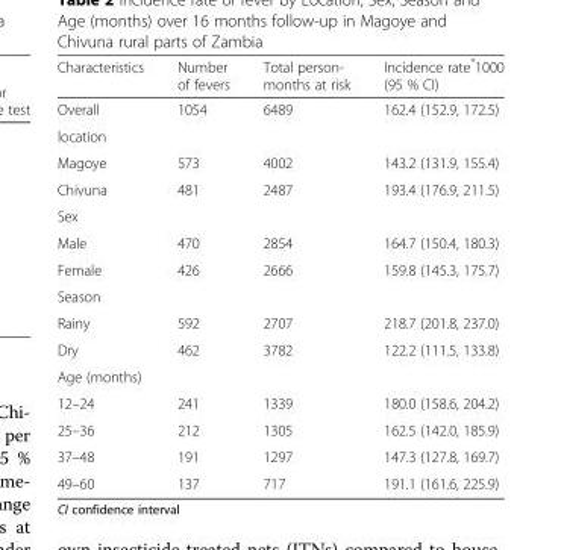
<table><thead><tr><td>Characteristics</td><td>Number of fevers</td><td>Total person- months at risk</td><td>Incidence rate*1000 (95 % CI)</td></tr></thead><tbody><tr><td>Overall</td><td>1054</td><td>6489</td><td>162.4 (152.9, 172.5)</td></tr><tr><td colspan="4">location</td></tr><tr><td>Magoye</td><td>573</td><td>4002</td><td>143.2 (131.9, 155.4)</td></tr><tr><td>Chivuna</td><td>481</td><td>2487</td><td>193.4 (176.9, 211.5)</td></tr><tr><td colspan="4">Sex</td></tr><tr><td>Male</td><td>470</td><td>2854</td><td>164.7 (150.4, 180.3)</td></tr><tr><td>Female</td><td>426</td><td>2666</td><td>159.8 (145.3, 175.7)</td></tr><tr><td colspan="4">Season</td></tr><tr><td>Rainy</td><td>592</td><td>2707</td><td>218.7 (201.8, 237.0)</td></tr><tr><td>Dry</td><td>462</td><td>3782</td><td>122.2 (111.5, 133.8)</td></tr><tr><td colspan="4">Age (months)</td></tr><tr><td>12–24</td><td>241</td><td>1339</td><td>180.0 (158.6, 204.2)</td></tr><tr><td>25–36</td><td>212</td><td>1305</td><td>162.5 (142.0, 185.9)</td></tr><tr><td>37–48</td><td>191</td><td>1297</td><td>147.3 (127.8, 169.7)</td></tr><tr><td>49–60</td><td>137</td><td>717</td><td>191.1 (161.6, 225.9)</td></tr></tbody></table>